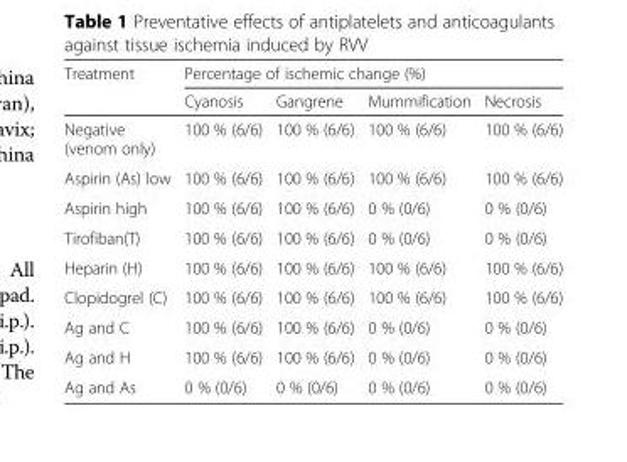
<table><thead><tr><td rowspan="2">Treatment</td><td colspan="4">Percentage of ischemic change (%)</td></tr><tr><td>Cyanosis</td><td>Gangrene</td><td>Mummification</td><td>Necrosis</td></tr></thead><tbody><tr><td>Negative (venom only)</td><td>100 % (6/6)</td><td>100 % (6/6)</td><td>100 % (6/6)</td><td>100 % (6/6)</td></tr><tr><td>Aspirin (As) low</td><td>100 % (6/6)</td><td>100 % (6/6)</td><td>100 % (6/6)</td><td>100 % (6/6)</td></tr><tr><td>Aspirin high</td><td>100 % (6/6)</td><td>100 % (6/6)</td><td>0 % (0/6)</td><td>0 % (0/6)</td></tr><tr><td>Tirofiban(T)</td><td>100 % (6/6)</td><td>100 % (6/6)</td><td>0 % (0/6)</td><td>0 % (0/6)</td></tr><tr><td>Heparin (H)</td><td>100 % (6/6)</td><td>100 % (6/6)</td><td>100 % (6/6)</td><td>100 % (6/6)</td></tr><tr><td>Clopidogrel (C)</td><td>100 % (6/6)</td><td>100 % (6/6)</td><td>100 % (6/6)</td><td>100 % (6/6)</td></tr><tr><td>Ag and C</td><td>100 % (6/6)</td><td>100 % (6/6)</td><td>0 % (0/6)</td><td>0 % (0/6)</td></tr><tr><td>Ag and H</td><td>100 % (6/6)</td><td>100 % (6/6)</td><td>0 % (0/6)</td><td>0 % (0/6)</td></tr><tr><td>Ag and As</td><td>0 % (0/6)</td><td>0 % (0/6)</td><td>0 % (0/6)</td><td>0 % (0/6)</td></tr></tbody></table>